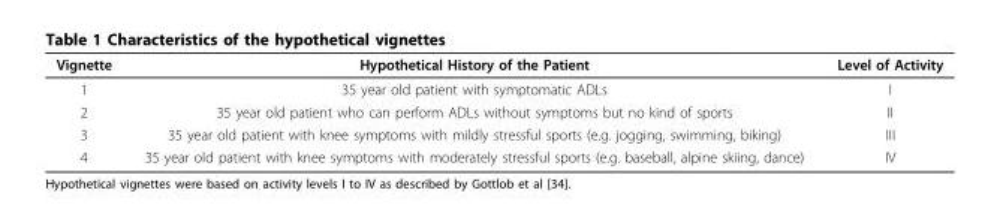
<table><thead><tr><td>Vignette</td><td>Hypothetical History of the Patient</td><td>Level of Activity</td></tr></thead><tbody><tr><td>1</td><td>35 year old patient with symptomatic ADLs</td><td>I</td></tr><tr><td>2</td><td>35 year old patient who can perform ADLs without symptoms but no kind of sports</td><td>II</td></tr><tr><td>3</td><td>35 year old patient with knee symptoms with mildly stressful sports (e.g. jogging, swimming, biking)</td><td>III</td></tr><tr><td>4</td><td>35 year old patient with knee symptoms with moderately stressful sports (e.g. baseball, alpine skiing, dance)</td><td>IV</td></tr></tbody></table>